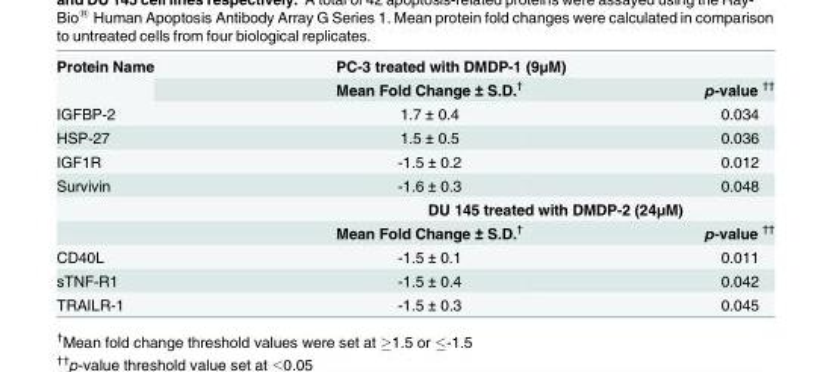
<table><tbody><tr><td rowspan="2">Protein Name</td><td colspan="2">PC-3 treated with DMDP-1 (9μM)</td></tr><tr><td>Mean Fold Change ± S.D.<sup>†</sup></td><td>p-value <sup>††</sup></td></tr><tr><td>IGFBP-2</td><td>1.7 ± 0.4</td><td>0.034</td></tr><tr><td>HSP-27</td><td>1.5 ± 0.5</td><td>0.036</td></tr><tr><td>IGF1R</td><td>-1.5 ± 0.2</td><td>0.012</td></tr><tr><td rowspan="3">Survivin</td><td>-1.6 ± 0.3</td><td>0.048</td></tr><tr><td colspan="2">DU 145 treated with DMDP-2 (24μM)</td></tr><tr><td>Mean Fold Change ± S.D.<sup>†</sup></td><td>p-value <sup>††</sup></td></tr><tr><td>CD40L</td><td>-1.5 ± 0.1</td><td>0.011</td></tr><tr><td>sTNF-R1</td><td>-1.5 ± 0.4</td><td>0.042</td></tr><tr><td>TRAILR-1</td><td>-1.5 ± 0.3</td><td>0.045</td></tr></tbody></table>